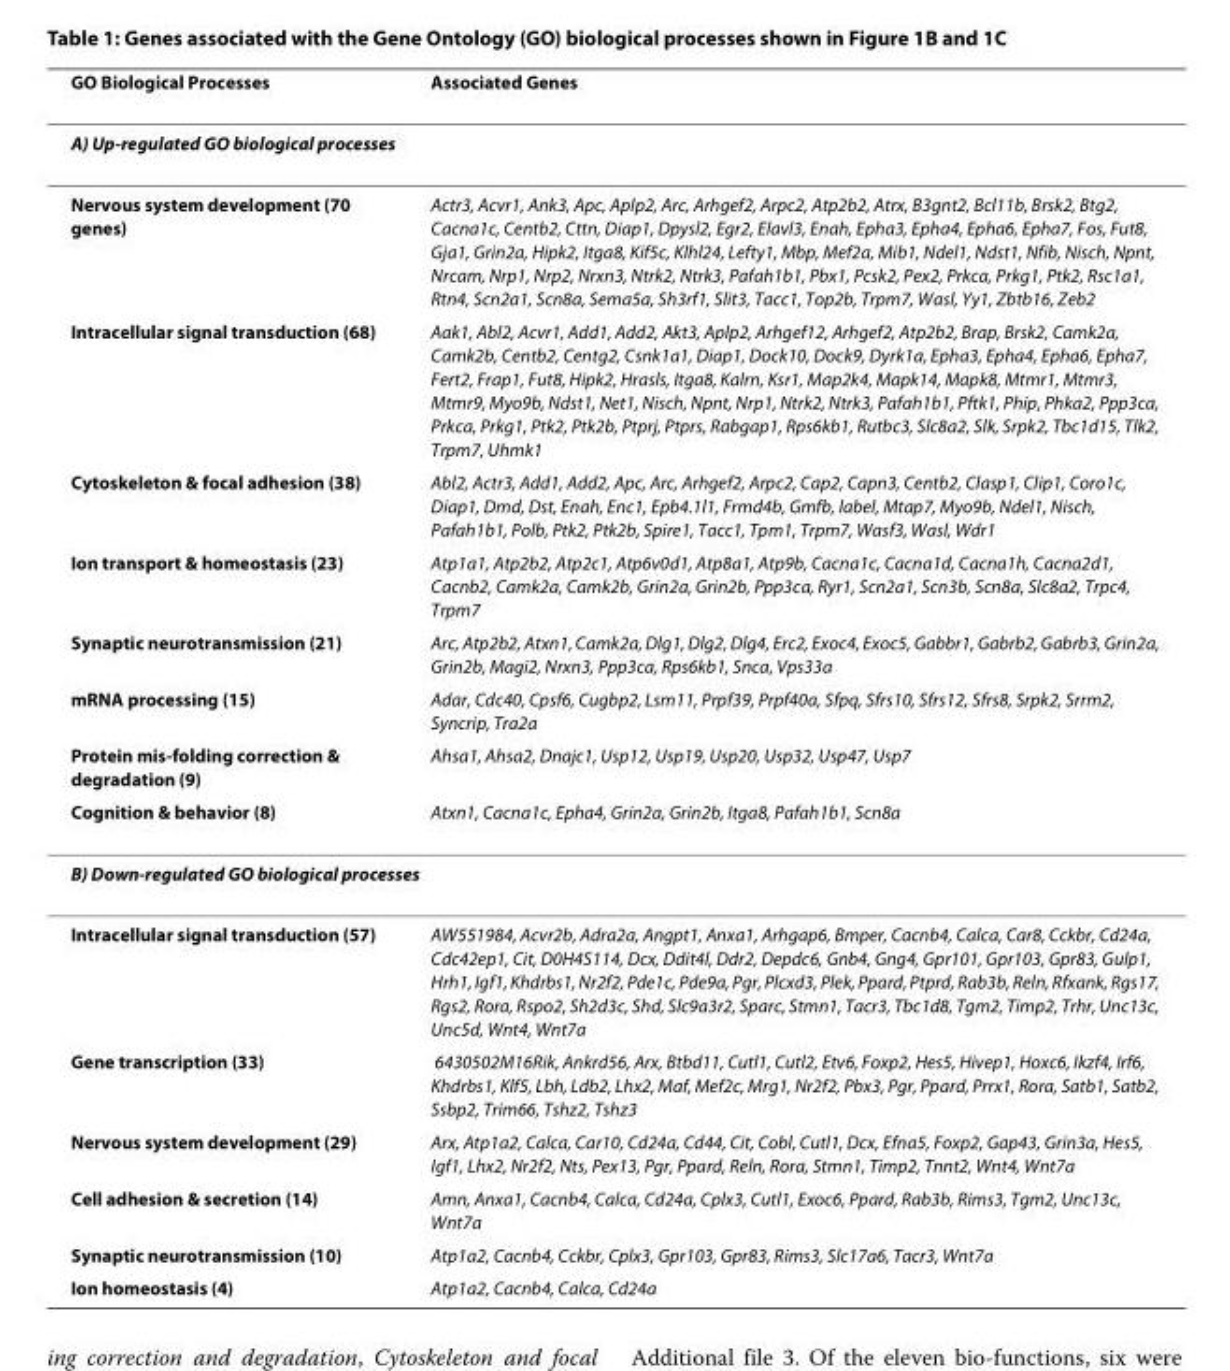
<table><thead><tr><td>GO Biological Processes</td><td>Associated Genes</td></tr></thead><tbody><tr><td colspan="2">A) Up-regulated GO biological processes</td></tr><tr><td>Nervous system development (70 genes)</td><td>Actr3, Acvr1, Ank3, Apc, Aplp2, Arc, Arhgef2, Arpc2, Atp2b2, Atrx, B3gnt2, Bcl11b, Brsk2, Btg2, Cacna1c, Centb2, Cttn, Diap1, Dpysl2, Egr2, Elavl3, Enah, Epha3, Epha4, Epha6, Epha7, Fos, Fut8, Gja1, Grin2a, Hipk2, Itga8, Kif5c, Klhl24, Lefty1, Mbp, Mef2a, Mib1, Ndel1, Ndst1, Nfib, Nisch, Npnt, Nrcam, Nrp1, Nrp2, Nrxn3, Ntrk2, Ntrk3, Pafah1b1, Pbx1, Pcsk2, Pex2, Prkca, Prkg1, Ptk2, Rsc1a1, Rtn4, Scn2a1, Scn8a, Sema5a, Sh3rf1, Slit3, Tacc1, Top2b, Trpm7, Wasl, Yy1, Zbtb16, Zeb2</td></tr><tr><td>Intracellular signal transduction (68)</td><td>Aak1, Abl2, Acvr1, Add1, Add2, Akt3, Aplp2, Arhgef12, Arhgef2, Atp2b2, Brap, Brsk2, Camk2a, Camk2b, Centb2, Centg2, Csnk1a1, Diap1, Dock10, Dock9, Dyrk1a, Epha3, Epha4, Epha6, Epha7, Fert2, Frap1, Fut8, Hipk2, Hrasls, Itga8, Kalrn, Ksr1, Map2k4, Mapk14, Mapk8, Mtmr1, Mtmr3, Mtmr9, Myo9b, Ndst1, Net1, Nisch, Npnt, Nrp1, Ntrk2, Ntrk3, Pafah1b1, Pftk1, Phip, Phka2, Ppp3ca, Prkca, Prkg1, Ptk2, Ptk2b, Ptprj, Ptprs, Rabgap1, Rps6kb1, Rutbc3, Slc8a2, Slk, Srpk2, Tbc1d15, Tlk2, Trpm7, Uhmk1</td></tr><tr><td>Cytoskeleton &amp; focal adhesion (38)</td><td>Abl2, Actr3, Add1, Add2, Apc, Arc, Arhgef2, Arpc2, Cap2, Capn3, Centb2, Clasp1, Clip1, Coro1c, Diap1, Dmd, Dst, Enah, Enc1, Epb4.1l1, Frmd4b, Gmfb, label, Mtap7, Myo9b, Ndel1, Nisch, Pafah1b1, Polb, Ptk2, Ptk2b, Spire1, Tacc1, Tpm1, Trpm7, Wasf3, Wasl, Wdr1</td></tr><tr><td>Ion transport &amp; homeostasis (23)</td><td>Atp1a1, Atp2b2, Atp2c1, Atp6v0d1, Atp8a1, Atp9b, Cacna1c, Cacna1d, Cacna1h, Cacna2d1, Cacnb2, Camk2a, Camk2b, Grin2a, Grin2b, Ppp3ca, Ryr1, Scn2a1, Scn3b, Scn8a, Slc8a2, Trpc4, Trpm7</td></tr><tr><td>Synaptic neurotransmission (21)</td><td>Arc, Atp2b2, Atxn1, Camk2a, Dlg1, Dlg2, Dlg4, Erc2, Exoc4, Exoc5, Gabbr1, Gabrb2, Gabrb3, Grin2a, Grin2b, Magi2, Nrxn3, Ppp3ca, Rps6kb1, Snca, Vps33a</td></tr><tr><td>mRNA processing (15)</td><td>Adar, Cdc40, Cpsf6, Cugbp2, Lsm11, Prpf39, Prpf40a, Sfpq, Sfrs10, Sfrs12, Sfrs8, Srpk2, Srrm2, Syncrip, Tra2a</td></tr><tr><td>Protein mis-folding correction &amp; degradation (9)</td><td>Ahsa1, Ahsa2, Dnajc1, Usp12, Usp19, Usp20, Usp32, Usp47, Usp7</td></tr><tr><td>Cognition &amp; behavior (8)</td><td>Atxn1, Cacna1c, Epha4, Grin2a, Grin2b, Itga8, Pafah1b1, Scn8a</td></tr><tr><td colspan="2">B) Down-regulated GO biological processes</td></tr><tr><td>Intracellular signal transduction (57)</td><td>AW551984, Acvr2b, Adra2a, Angpt1, Anxa1, Arhgap6, Bmper, Cacnb4, Calca, Car8, Cckbr, Cd24a, Cdc42ep1, Cit, D0H4S114, Dcx, Ddit4l, Ddr2, Depdc6, Gnb4, Gng4, Gpr101, Gpr103, Gpr83, Gulp1, Hrh1, Igf1, Khdrbs1, Nr2f2, Pde1c, Pde9a, Pgr, Plcxd3, Plek, Ppard, Ptprd, Rab3b, Reln, Rfxank, Rgs17, Rgs2, Rora, Rspo2, Sh2d3c, Shd, Slc9a3r2, Sparc, Stmn1, Tacr3, Tbc1d8, Tgm2, Timp2, Trhr, Unc13c, Unc5d, Wnt4, Wnt7a</td></tr><tr><td>Gene transcription (33)</td><td>6430502M16Rik, Ankrd56, Arx, Btbd11, Cutl1, Cutl2, Etv6, Foxp2, Hes5, Hivep1, Hoxc6, Ikzf4, Irf6, Khdrbs1, Klf5, Lbh, Ldb2, Lhx2, Maf, Mef2c, Mrg1, Nr2f2, Pbx3, Pgr, Ppard, Prrx1, Rora, Satb1, Satb2, Ssbp2, Trim66, Tshz2, Tshz3</td></tr><tr><td>Nervous system development (29)</td><td>Arx, Atp1a2, Calca, Car10, Cd24a, Cd44, Cit, Cobl, Cutl1, Dcx, Efna5, Foxp2, Gap43, Grin3a, Hes5, Igf1, Lhx2, Nr2f2, Nts, Pex13, Pgr, Ppard, Reln, Rora, Stmn1, Timp2, Tnnt2, Wnt4, Wnt7a</td></tr><tr><td>Cell adhesion &amp; secretion (14)</td><td>Amn, Anxa1, Cacnb4, Calca, Cd24a, Cplx3, Cutl1, Exoc6, Ppard, Rab3b, Rims3, Tgm2, Unc13c, Wnt7a</td></tr><tr><td>Synaptic neurotransmission (10)</td><td>Atp1a2, Cacnb4, Cckbr, Cplx3, Gpr103, Gpr83, Rims3, Slc17a6, Tacr3, Wnt7a</td></tr><tr><td>Ion homeostasis (4)</td><td>Atp1a2, Cacnb4, Calca, Cd24a</td></tr></tbody></table>